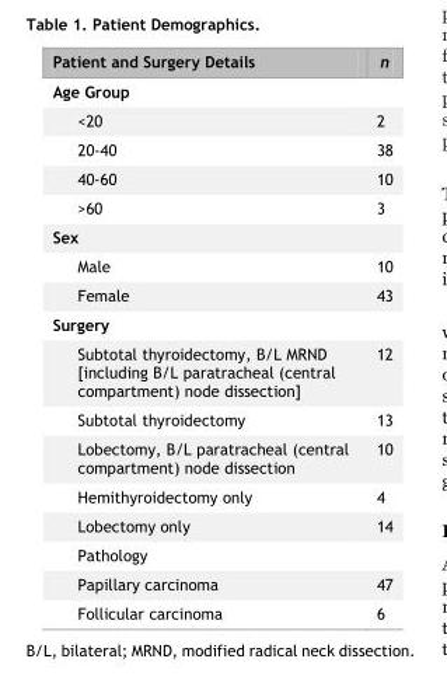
<table><thead><tr><td>Patient and Surgery Details</td><td>n</td></tr></thead><tbody><tr><td colspan="2">Age Group</td></tr><tr><td>&lt;20</td><td>2</td></tr><tr><td>20-40</td><td>38</td></tr><tr><td>40-60</td><td>10</td></tr><tr><td>&gt;60</td><td>3</td></tr><tr><td colspan="2">Sex</td></tr><tr><td>Male</td><td>10</td></tr><tr><td>Female</td><td>43</td></tr><tr><td colspan="2">Surgery</td></tr><tr><td>Subtotal thyroidectomy, B/L MRND [including B/L paratracheal (central compartment) node dissection]</td><td>12</td></tr><tr><td>Subtotal thyroidectomy</td><td>13</td></tr><tr><td>Lobectomy, B/L paratracheal (central compartment) node dissection</td><td>10</td></tr><tr><td>Hemithyroidectomy only</td><td>4</td></tr><tr><td>Lobectomy only</td><td>14</td></tr><tr><td colspan="2">Pathology</td></tr><tr><td>Papillary carcinoma</td><td>47</td></tr><tr><td>Follicular carcinoma</td><td>6</td></tr></tbody></table>